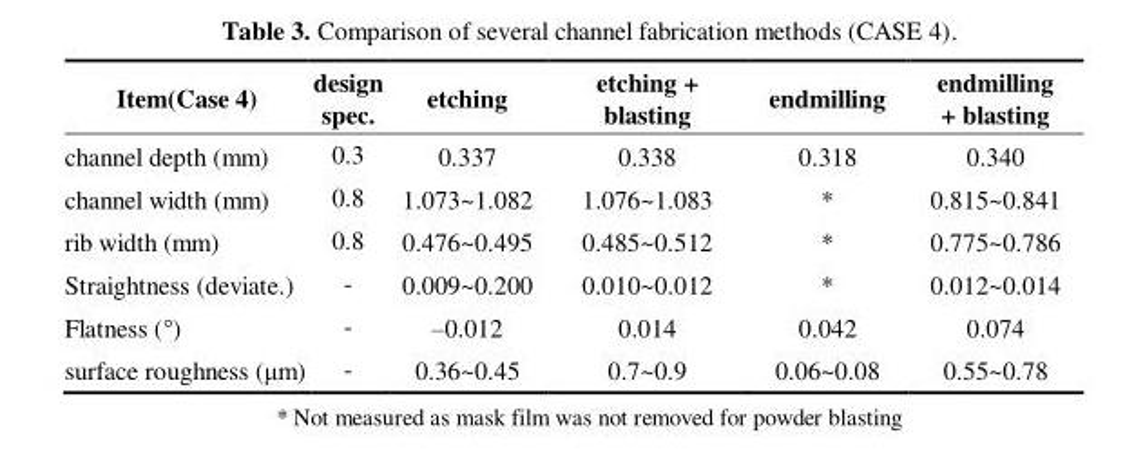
<table><thead><tr><td>Item(Case 4)</td><td>design spec.</td><td>etching</td><td>etching + blasting</td><td>endmilling</td><td>endmilling + blasting</td></tr></thead><tbody><tr><td>channel depth (mm)</td><td>0.3</td><td>0.337</td><td>0.338</td><td>0.318</td><td>0.340</td></tr><tr><td>channel width (mm)</td><td>0.8</td><td>1.073~1.082</td><td>1.076~1.083</td><td>*</td><td>0.815~0.841</td></tr><tr><td>rib width (mm)</td><td>0.8</td><td>0.476~0.495</td><td>0.485~0.512</td><td>*</td><td>0.775~0.786</td></tr><tr><td>Straightness (deviate.)</td><td>-</td><td>0.009~0.200</td><td>0.010~0.012</td><td>*</td><td>0.012~0.014</td></tr><tr><td>Flatness (°)</td><td>-</td><td>–0.012</td><td>0.014</td><td>0.042</td><td>0.074</td></tr><tr><td>surface roughness (μm)</td><td>-</td><td>0.36~0.45</td><td>0.7~0.9</td><td>0.06~0.08</td><td>0.55~0.78</td></tr></tbody></table>